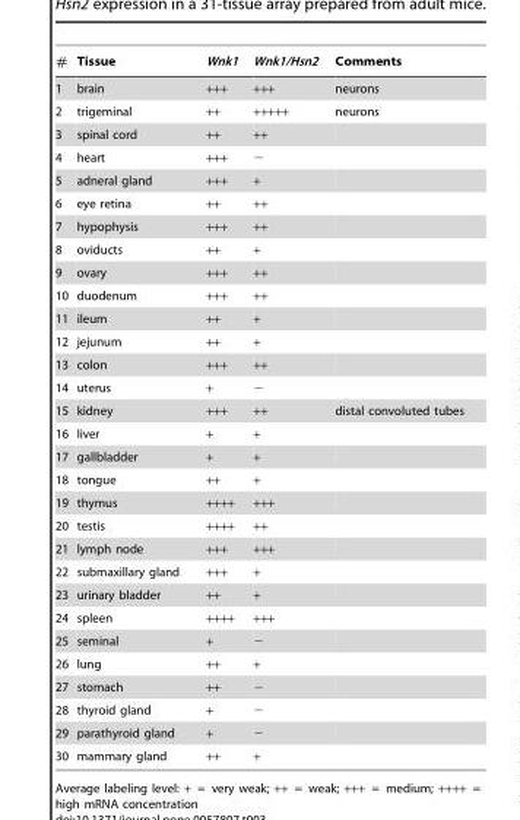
<table><thead><tr><td>#</td><td>Tissue</td><td>Wnk1</td><td>Wnk1/Hsn2</td><td>Comments</td></tr></thead><tbody><tr><td>1</td><td>brain</td><td>+++</td><td>+++</td><td>neurons</td></tr><tr><td>2</td><td>trigeminal</td><td>++</td><td>+++++</td><td>neurons</td></tr><tr><td>3</td><td>spinal cord</td><td>++</td><td>++</td><td></td></tr><tr><td>4</td><td>heart</td><td>+++</td><td>−</td><td></td></tr><tr><td>5</td><td>adneral gland</td><td>+++</td><td>+</td><td></td></tr><tr><td>6</td><td>eye retina</td><td>++</td><td>++</td><td></td></tr><tr><td>7</td><td>hypophysis</td><td>+++</td><td>++</td><td></td></tr><tr><td>8</td><td>oviducts</td><td>++</td><td>+</td><td></td></tr><tr><td>9</td><td>ovary</td><td>+++</td><td>++</td><td></td></tr><tr><td>10</td><td>duodenum</td><td>+++</td><td>++</td><td></td></tr><tr><td>11</td><td>ileum</td><td>++</td><td>+</td><td></td></tr><tr><td>12</td><td>jejunum</td><td>++</td><td>+</td><td></td></tr><tr><td>13</td><td>colon</td><td>+++</td><td>++</td><td></td></tr><tr><td>14</td><td>uterus</td><td>+</td><td>−</td><td></td></tr><tr><td>15</td><td>kidney</td><td>+++</td><td>++</td><td>distal convoluted tubes</td></tr><tr><td>16</td><td>liver</td><td>+</td><td>+</td><td></td></tr><tr><td>17</td><td>gallbladder</td><td>+</td><td>+</td><td></td></tr><tr><td>18</td><td>tongue</td><td>++</td><td>+</td><td></td></tr><tr><td>19</td><td>thymus</td><td>++++</td><td>+++</td><td></td></tr><tr><td>20</td><td>testis</td><td>++++</td><td>++</td><td></td></tr><tr><td>21</td><td>lymph node</td><td>+++</td><td>+++</td><td></td></tr><tr><td>22</td><td>submaxillary gland</td><td>+++</td><td>+</td><td></td></tr><tr><td>23</td><td>urinary bladder</td><td>++</td><td>+</td><td></td></tr><tr><td>24</td><td>spleen</td><td>++++</td><td>+++</td><td></td></tr><tr><td>25</td><td>seminal</td><td>+</td><td>−</td><td></td></tr><tr><td>26</td><td>lung</td><td>++</td><td>+</td><td></td></tr><tr><td>27</td><td>stomach</td><td>++</td><td>−</td><td></td></tr><tr><td>28</td><td>thyroid gland</td><td>+</td><td>−</td><td></td></tr><tr><td>29</td><td>parathyroid gland</td><td>+</td><td>−</td><td></td></tr><tr><td>30</td><td>mammary gland</td><td>++</td><td>+</td><td></td></tr></tbody></table>